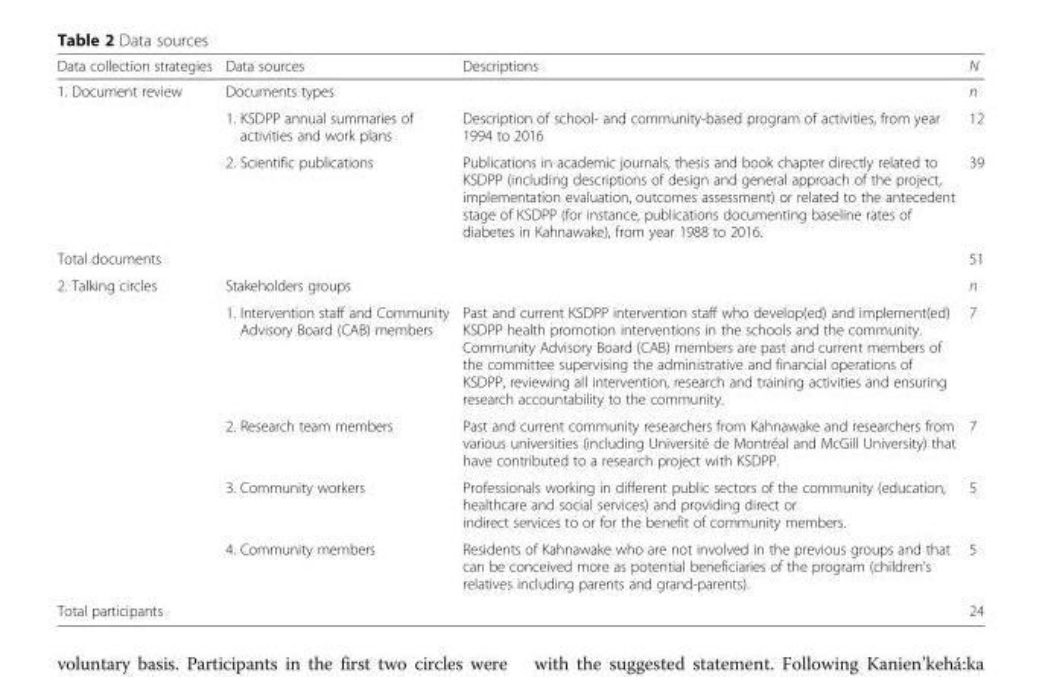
<table><thead><tr><td>Data collection strategies</td><td>Data sources</td><td>Descriptions</td><td>N</td></tr></thead><tbody><tr><td rowspan="3">1. Document review</td><td colspan="2">Documents types</td><td>n</td></tr><tr><td>1. KSDPP annual summaries of activities and work plans</td><td>Description of school- and community-based program of activities, from year 1994 to 2016</td><td>12</td></tr><tr><td>2. Scientific publications</td><td>Publications in academic journals, thesis and book chapter directly related to KSDPP (including descriptions of design and general approach of the project, implementation evaluation, outcomes assessment) or related to the antecedent stage of KSDPP (for instance, publications documenting baseline rates of diabetes in Kahnawake), from year 1988 to 2016.</td><td>39</td></tr><tr><td colspan="3">Total documents</td><td>51</td></tr><tr><td rowspan="5">2. Talking circles</td><td colspan="2">Stakeholders groups</td><td>n</td></tr><tr><td>1. Intervention staff and Community Advisory Board (CAB) members</td><td>Past and current KSDPP intervention staff who develop(ed) and implement(ed) KSDPP health promotion interventions in the schools and the community. Community Advisory Board (CAB) members are past and current members of the committee supervising the administrative and financial operations of KSDPP, reviewing all intervention, research and training activities and ensuring research accountability to the community.</td><td>7</td></tr><tr><td>2. Research team members</td><td>Past and current community researchers from Kahnawake and researchers from various universities (including Université de Montréal and McGill University) that have contributed to a research project with KSDPP.</td><td>7</td></tr><tr><td>3. Community workers</td><td>Professionals working in different public sectors of the community (education, healthcare and social services) and providing direct or indirect services to or for the benefit of community members.</td><td>5</td></tr><tr><td>4. Community members</td><td>Residents of Kahnawake who are not involved in the previous groups and that can be conceived more as potential beneficiaries of the program (children’s relatives including parents and grand-parents).</td><td>5</td></tr><tr><td colspan="3">Total participants</td><td>24</td></tr></tbody></table>